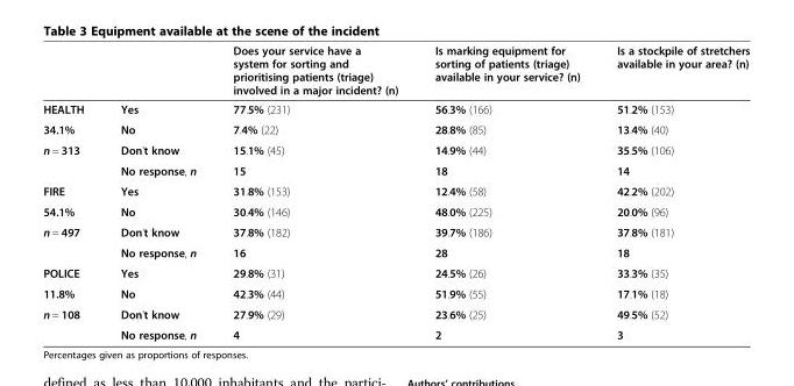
<table><thead><tr><td></td><td></td><td>Does your service have a system for sorting and prioritising patients (triage) involved in a major incident? (n)</td><td>Is marking equipment for sorting of patients (triage) available in your service? (n)</td><td>Is a stockpile of stretchers available in your area? (n)</td></tr></thead><tbody><tr><td>HEALTH</td><td>Yes</td><td>77.5% (231)</td><td>56.3% (166)</td><td>51.2% (153)</td></tr><tr><td>34.1%</td><td>No</td><td>7.4% (22)</td><td>28.8% (85)</td><td>13.4% (40)</td></tr><tr><td rowspan="2">n = 313</td><td>Don’t know</td><td>15.1% (45)</td><td>14.9% (44)</td><td>35.5% (106)</td></tr><tr><td>No response, n</td><td>15</td><td>18</td><td>14</td></tr><tr><td>FIRE</td><td>Yes</td><td>31.8% (153)</td><td>12.4% (58)</td><td>42.2% (202)</td></tr><tr><td>54.1%</td><td>No</td><td>30.4% (146)</td><td>48.0% (225)</td><td>20.0% (96)</td></tr><tr><td rowspan="2">n = 497</td><td>Don’t know</td><td>37.8% (182)</td><td>39.7% (186)</td><td>37.8% (181)</td></tr><tr><td>No response, n</td><td>16</td><td>28</td><td>18</td></tr><tr><td>POLICE</td><td>Yes</td><td>29.8% (31)</td><td>24.5% (26)</td><td>33.3% (35)</td></tr><tr><td>11.8%</td><td>No</td><td>42.3% (44)</td><td>51.9% (55)</td><td>17.1% (18)</td></tr><tr><td rowspan="2">n = 108</td><td>Don’t know</td><td>27.9% (29)</td><td>23.6% (25)</td><td>49.5% (52)</td></tr><tr><td>No response, n</td><td>4</td><td>2</td><td>3</td></tr></tbody></table>